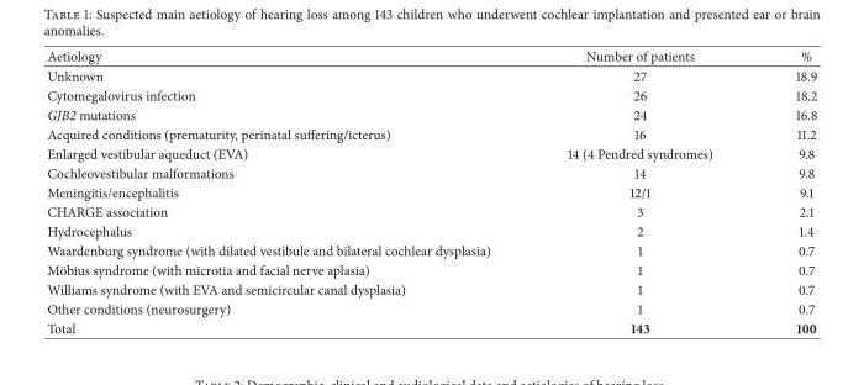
<table><thead><tr><td>Aetiology</td><td>Number of patients</td><td>%</td></tr></thead><tbody><tr><td>Unknown</td><td>27</td><td>18.9</td></tr><tr><td>Cytomegalovirus infection</td><td>26</td><td>18.2</td></tr><tr><td>GJB2 mutations</td><td>24</td><td>16.8</td></tr><tr><td>Acquired conditions (prematurity, perinatal suffering/icterus)</td><td>16</td><td>11.2</td></tr><tr><td>Enlarged vestibular aqueduct (EVA)</td><td>14 (4 Pendred syndromes)</td><td>9.8</td></tr><tr><td>Cochleovestibular malformations</td><td>14</td><td>9.8</td></tr><tr><td>Meningitis/encephalitis</td><td>12/1</td><td>9.1</td></tr><tr><td>CHARGE association</td><td>3</td><td>2.1</td></tr><tr><td>Hydrocephalus</td><td>2</td><td>1.4</td></tr><tr><td>Waardenburg syndrome (with dilated vestibule and bilateral cochlear dysplasia)</td><td>1</td><td>0.7</td></tr><tr><td>M¨obius syndrome (with microtia and facial nerve aplasia)</td><td>1</td><td>0.7</td></tr><tr><td>Williams syndrome (with EVA and semicircular canal dysplasia)</td><td>1</td><td>0.7</td></tr><tr><td>Other conditions (neurosurgery)</td><td>1</td><td>0.7</td></tr><tr><td>Total</td><td>143</td><td>100</td></tr></tbody></table>